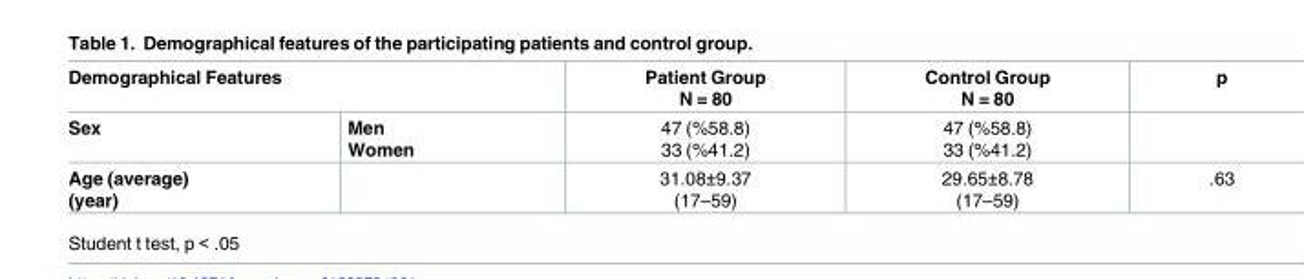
<table><thead><tr><td colspan="2">Demographical Features</td><td rowspan="2">Patient Group N = 80 47 (%58.8) 33 (%41.2)</td><td rowspan="2">Control Group N = 80 47 (%58.8) 33 (%41.2)</td><td rowspan="2">p</td></tr><tr><td>Sex</td><td>Men Women</td></tr></thead><tbody><tr><td>Age (average) (year)</td><td></td><td>31.08±9.37 (17–59)</td><td>29.65±8.78 (17–59)</td><td>.63</td></tr></tbody></table>